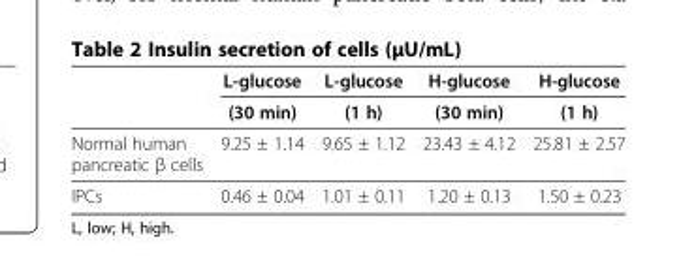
<table><thead><tr><td rowspan="2"></td><td rowspan="2">L-glucose (30 min)</td><td rowspan="2">L-glucose (1 h)</td><td rowspan="2">H-glucose (30 min)</td><td rowspan="2">H-glucose (1 h)</td></tr><tr></tr></thead><tbody><tr><td>Normal human pancreatic β cells</td><td>9.25 ± 1.14</td><td>9.65 ± 1.12</td><td>23.43 ± 4.12</td><td>25.81 ± 2.57</td></tr><tr><td>IPCs</td><td>0.46 ± 0.04</td><td>1.01 ± 0.11</td><td>1.20 ± 0.13</td><td>1.50 ± 0.23</td></tr></tbody></table>